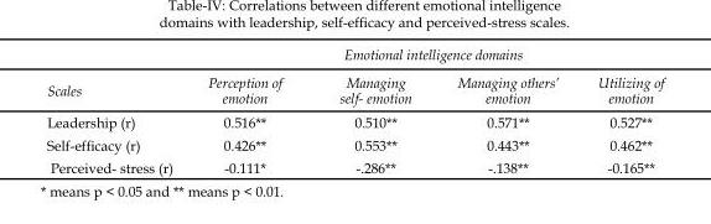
<table><thead><tr><td rowspan="2">Scales</td><td colspan="4">Emotional intelligence domains</td></tr><tr><td>Perception of emotion</td><td>Managing self- emotion</td><td>Managing others’ emotion</td><td>Utilizing of emotion</td></tr></thead><tbody><tr><td>Leadership (r)</td><td>0.516**</td><td>0.510**</td><td>0.571**</td><td>0.527**</td></tr><tr><td>Self-efficacy (r)</td><td>0.426**</td><td>0.553**</td><td>0.443**</td><td>0.462**</td></tr><tr><td>Perceived- stress (r)</td><td>-0.111*</td><td>-.286**</td><td>-.138**</td><td>-0.165**</td></tr></tbody></table>